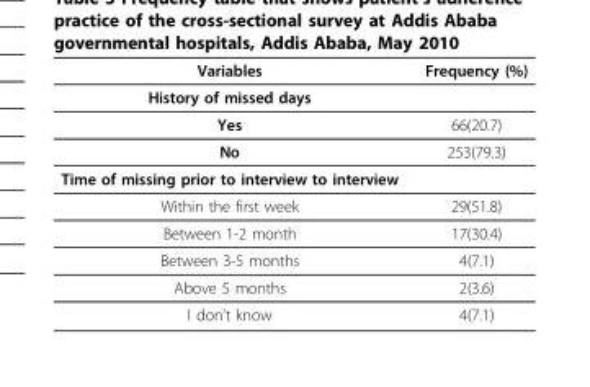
<table><thead><tr><td>Variables</td><td>Frequency (%)</td></tr></thead><tbody><tr><td colspan="2">History of missed days</td></tr><tr><td>Yes</td><td>66(20.7)</td></tr><tr><td>No</td><td>253(79.3)</td></tr><tr><td colspan="2">Time of missing prior to interview to interview</td></tr><tr><td>Within the first week</td><td>29(51.8)</td></tr><tr><td>Between 1-2 month</td><td>17(30.4)</td></tr><tr><td>Between 3-5 months</td><td>4(7.1)</td></tr><tr><td>Above 5 months</td><td>2(3.6)</td></tr><tr><td>I don’t know</td><td>4(7.1)</td></tr></tbody></table>